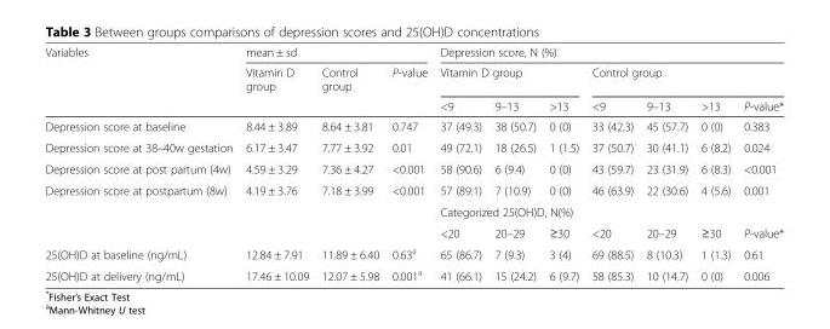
<table><thead><tr><td rowspan="3">Variables</td><td colspan="3">mean ± sd</td><td colspan="7">Depression score, N (%)</td></tr><tr><td rowspan="2">Vitamin D group</td><td rowspan="2">Control group</td><td rowspan="2">P-value</td><td colspan="3">Vitamin D group</td><td colspan="4">Control group</td></tr><tr><td>&lt;9</td><td>9–13</td><td>&gt;13</td><td>&lt;9</td><td>9–13</td><td>&gt;13</td><td>P-value*</td></tr></thead><tbody><tr><td>Depression score at baseline</td><td>8.44 ± 3.89</td><td>8.64 ± 3.81</td><td>0.747</td><td>37 (49.3)</td><td>38 (50.7)</td><td>0 (0)</td><td>33 (42.3)</td><td>45 (57.7)</td><td>0 (0)</td><td>0.383</td></tr><tr><td>Depression score at 38–40w gestation</td><td>6.17 ± 3.47</td><td>7.77 ± 3.92</td><td>0.01</td><td>49 (72.1)</td><td>18 (26.5)</td><td>1 (1.5)</td><td>37 (50.7)</td><td>30 (41.1)</td><td>6 (8.2)</td><td>0.024</td></tr><tr><td>Depression score at post partum (4w)</td><td>4.59 ± 3.29</td><td>7.36 ± 4.27</td><td>&lt;0.001</td><td>58 (90.6)</td><td>6 (9.4)</td><td>0 (0)</td><td>43 (59.7)</td><td>23 (31.9)</td><td>6 (8.3)</td><td>&lt;0.001</td></tr><tr><td rowspan="3">Depression score at postpartum (8w)</td><td>4.19 ± 3.76</td><td>7.18 ± 3.99</td><td>&lt;0.001</td><td>57 (89.1)</td><td>7 (10.9)</td><td>0 (0)</td><td>46 (63.9)</td><td>22 (30.6)</td><td>4 (5.6)</td><td>0.001</td></tr><tr><td rowspan="2"></td><td rowspan="2"></td><td rowspan="2"></td><td colspan="7">Categorized 25(OH)D, N(%)</td></tr><tr><td>&lt;20</td><td>20–29</td><td>≥30</td><td>&lt;20</td><td>20–29</td><td>≥30</td><td>P-value*</td></tr><tr><td>25(OH)D at baseline (ng/mL)</td><td>12.84 ± 7.91</td><td>11.89 ± 6.40</td><td>0.63<sup>a</sup></td><td>65 (86.7)</td><td>7 (9.3)</td><td>3 (4)</td><td>69 (88.5)</td><td>8 (10.3)</td><td>1 (1.3)</td><td>0.61</td></tr><tr><td>25(OH)D at delivery (ng/mL)</td><td>17.46 ± 10.09</td><td>12.07 ± 5.98</td><td>0.001<sup>a</sup></td><td>41 (66.1)</td><td>15 (24.2)</td><td>6 (9.7)</td><td>58 (85.3)</td><td>10 (14.7)</td><td>0 (0)</td><td>0.006</td></tr></tbody></table>